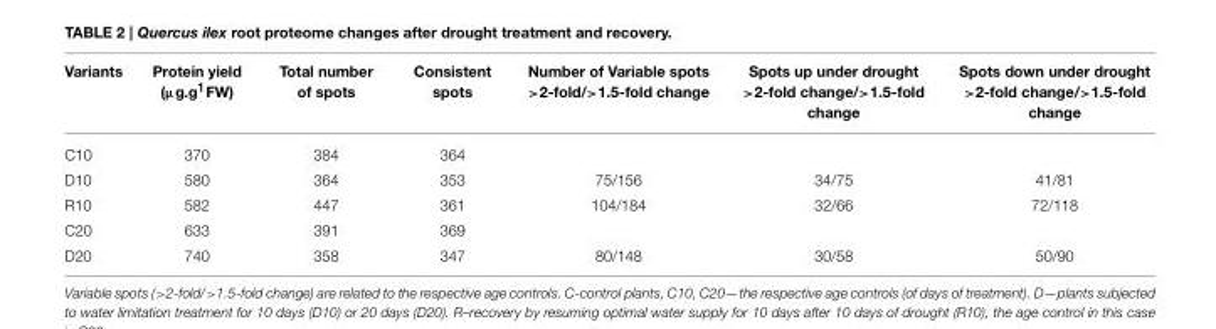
<table><thead><tr><td>Variants</td><td>Protein yield (µg.g<sup>1</sup>FW)</td><td>Total number of spots</td><td>Consistent spots</td><td>Number of Variable spots &gt;2-fold/&gt;1.5-fold change</td><td>Spots up under drought &gt;2-fold change/&gt;1.5-fold change</td><td>Spots down under drought &gt;2-fold change/&gt;1.5-fold change</td></tr></thead><tbody><tr><td>C10</td><td>370</td><td>384</td><td>364</td><td></td><td></td><td></td></tr><tr><td>D10</td><td>580</td><td>364</td><td>353</td><td>75/156</td><td>34/75</td><td>41/81</td></tr><tr><td>R10</td><td>582</td><td>447</td><td>361</td><td>104/184</td><td>32/66</td><td>72/118</td></tr><tr><td>C20</td><td>633</td><td>391</td><td>369</td><td></td><td></td><td></td></tr><tr><td>D20</td><td>740</td><td>358</td><td>347</td><td>80/148</td><td>30/58</td><td>50/90</td></tr></tbody></table>